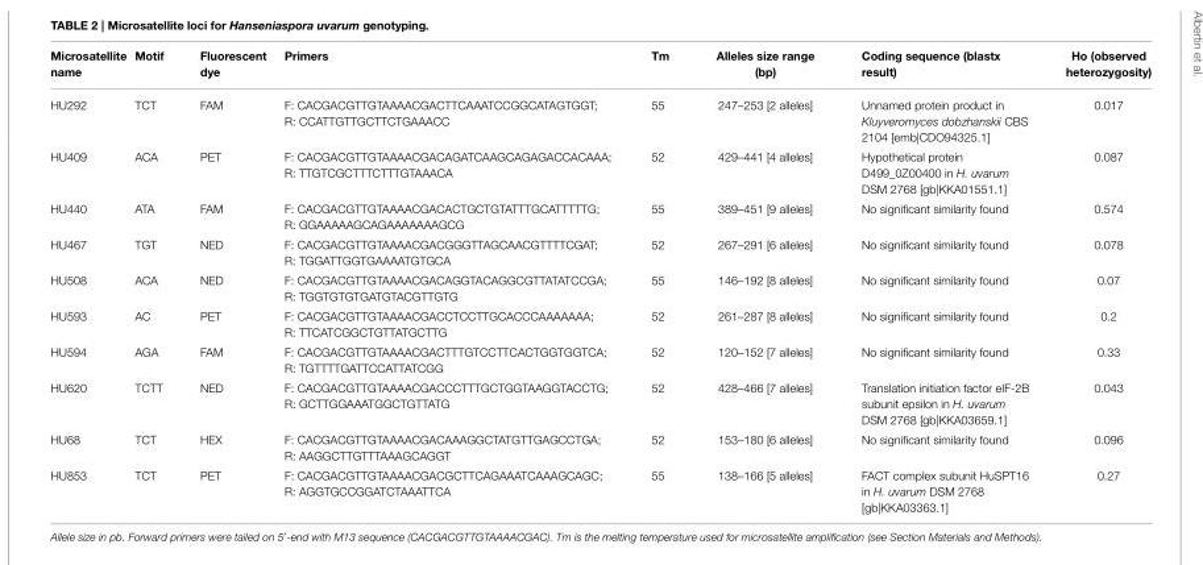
<table><thead><tr><td>Microsatellite name</td><td>Motif</td><td>Fluorescent dye</td><td>Primers</td><td>Tm</td><td>Alleles size range (bp)</td><td>Coding sequence (blastx result)</td><td>Ho (observed heterozygosity)</td></tr></thead><tbody><tr><td>HU292</td><td>TCT</td><td>FAM</td><td>F: CACGACGTTGTAAAACGACTTCAAATCCGGCATAGTGGT; R: CCATTGTTGCTTCTGAAACC</td><td>55</td><td>247–253 [2 alleles]</td><td>Unnamed protein product in Kluyveromyces dobzhanskii CBS 2104 [emb|CDO94325.1]</td><td>0.017</td></tr><tr><td>HU409</td><td>ACA</td><td>PET</td><td>F: CACGACGTTGTAAAACGACAGATCAAGCAGAGACCACAAA; R: TTGTCGCTTTCTTTGTAAACA</td><td>52</td><td>429–441 [4 alleles]</td><td>Hypothetical protein D499_0Z00400 in H. uvarum DSM 2768 [gb|KKA01551.1]</td><td>0.087</td></tr><tr><td>HU440</td><td>ATA</td><td>FAM</td><td>F: CACGACGTTGTAAAACGACACTGCTGTATTTGCATTTTTG; R: GGAAAAAGCAGAAAAAAAGCG</td><td>55</td><td>389–451 [9 alleles]</td><td>No significant similarity found</td><td>0.574</td></tr><tr><td>HU467</td><td>TGT</td><td>NED</td><td>F: CACGACGTTGTAAAACGACGGGTTAGCAACGTTTTCGAT; R: TGGATTGGTGAAAATGTGCA</td><td>52</td><td>267–291 [6 alleles]</td><td>No significant similarity found</td><td>0.078</td></tr><tr><td>HU508</td><td>ACA</td><td>NED</td><td>F: CACGACGTTGTAAAACGACAGGTACAGGCGTTATATCCGA; R: TGGTGTGTGATGTACGTTGTG</td><td>55</td><td>146–192 [8 alleles]</td><td>No significant similarity found</td><td>0.07</td></tr><tr><td>HU593</td><td>AC</td><td>PET</td><td>F: CACGACGTTGTAAAACGACCTCCTTGCACCCAAAAAAA; R: TTCATCGGCTGTTATGCTTG</td><td>52</td><td>261–287 [8 alleles]</td><td>No significant similarity found</td><td>0.2</td></tr><tr><td>HU594</td><td>AGA</td><td>FAM</td><td>F: CACGACGTTGTAAAACGACTTTGTCCTTCACTGGTGGTCA; R: TGTTTTGATTCCATTATCGG</td><td>52</td><td>120–152 [7 alleles]</td><td>No significant similarity found</td><td>0.33</td></tr><tr><td>HU620</td><td>TCTT</td><td>NED</td><td>F: CACGACGTTGTAAAACGACCCTTTGCTGGTAAGGTACCTG; R: GCTTGGAAATGGCTGTTATG</td><td>52</td><td>428–466 [7 alleles]</td><td>Translation initiation factor eIF-2B subunit epsilon in H. uvarum DSM 2768 [gb|KKA03659.1]</td><td>0.043</td></tr><tr><td>HU68</td><td>TCT</td><td>HEX</td><td>F: CACGACGTTGTAAAACGACAAAGGCTATGTTGAGCCTGA; R: AAGGCTTGTTTAAAGCAGGT</td><td>52</td><td>153–180 [6 alleles]</td><td>No significant similarity found</td><td>0.096</td></tr><tr><td>HU853</td><td>TCT</td><td>PET</td><td>F: CACGACGTTGTAAAACGACGCTTCAGAAATCAAAGCAGC; R: AGGTGCCGGATCTAAATTCA</td><td>55</td><td>138–166 [5 alleles]</td><td>FACT complex subunit HuSPT16 in H. uvarum DSM 2768 [gb|KKA03363.1]</td><td>0.27</td></tr></tbody></table>